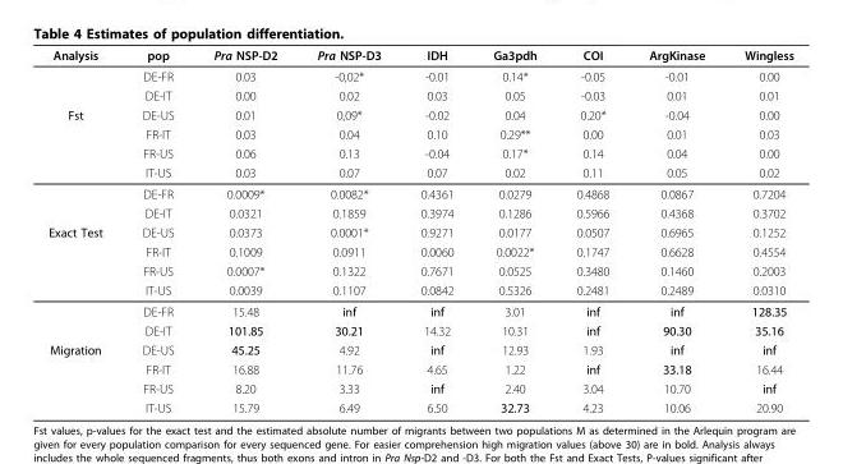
<table><thead><tr><td>Analysis</td><td>pop</td><td>Pra NSP-D2</td><td>Pra NSP-D3</td><td>IDH</td><td>Ga3pdh</td><td>COI</td><td>ArgKinase</td><td>Wingless</td></tr></thead><tbody><tr><td></td><td>DE-FR</td><td>0.03</td><td>-0,02*</td><td>-0.01</td><td>0.14*</td><td>-0.05</td><td>-0.01</td><td>0.00</td></tr><tr><td></td><td>DE-IT</td><td>0.00</td><td>0.02</td><td>0.03</td><td>0.05</td><td>-0.03</td><td>0.01</td><td>0.01</td></tr><tr><td rowspan="6">Fst</td><td>DE-US</td><td>0.01</td><td>0,09*</td><td>-0.02</td><td>0.04</td><td>0.20*</td><td>-0.04</td><td>0.00</td></tr><tr><td>FR-IT</td><td>0.03</td><td>0.04</td><td>0.10</td><td>0.29**</td><td>0.00</td><td>0.01</td><td>0.03</td></tr><tr><td>FR-US</td><td>0.06</td><td>0.13</td><td>-0.04</td><td>0.17*</td><td>0.14</td><td>0.04</td><td>0.00</td></tr><tr><td>IT-US</td><td>0.03</td><td>0.07</td><td>0.07</td><td>0.02</td><td>0.11</td><td>0.05</td><td>0.02</td></tr><tr><td>DE-FR</td><td>0.0009*</td><td>0.0082*</td><td>0.4361</td><td>0.0279</td><td>0.4868</td><td>0.0867</td><td>0.7204</td></tr><tr><td>DE-IT</td><td>0.0321</td><td>0.1859</td><td>0.3974</td><td>0.1286</td><td>0.5966</td><td>0.4368</td><td>0.3702</td></tr><tr><td rowspan="6">Exact Test</td><td>DE-US</td><td>0.0373</td><td>0.0001*</td><td>0.9271</td><td>0.0177</td><td>0.0507</td><td>0.6965</td><td>0.1252</td></tr><tr><td>FR-IT</td><td>0.1009</td><td>0.0911</td><td>0.0060</td><td>0.0022*</td><td>0.1747</td><td>0.6628</td><td>0.4554</td></tr><tr><td>FR-US</td><td>0.0007*</td><td>0.1322</td><td>0.7671</td><td>0.0525</td><td>0.3480</td><td>0.1460</td><td>0.2003</td></tr><tr><td>IT-US</td><td>0.0039</td><td>0.1107</td><td>0.0842</td><td>0.5326</td><td>0.2481</td><td>0.2489</td><td>0.0310</td></tr><tr><td>DE-FR</td><td>15.48</td><td>inf</td><td>inf</td><td>3.01</td><td>inf</td><td>inf</td><td>128.35</td></tr><tr><td>DE-IT</td><td>101.85</td><td>30.21</td><td>14.32</td><td>10.31</td><td>inf</td><td>90.30</td><td>35.16</td></tr><tr><td rowspan="4">Migration</td><td>DE-US</td><td>45.25</td><td>4.92</td><td>inf</td><td>12.93</td><td>1.93</td><td>inf</td><td>inf</td></tr><tr><td>FR-IT</td><td>16.88</td><td>11.76</td><td>4.65</td><td>1.22</td><td>inf</td><td>33.18</td><td>16.44</td></tr><tr><td>FR-US</td><td>8.20</td><td>3.33</td><td>inf</td><td>2.40</td><td>3.04</td><td>10.70</td><td>inf</td></tr><tr><td>IT-US</td><td>15.79</td><td>6.49</td><td>6.50</td><td>32.73</td><td>4.23</td><td>10.06</td><td>20.90</td></tr></tbody></table>